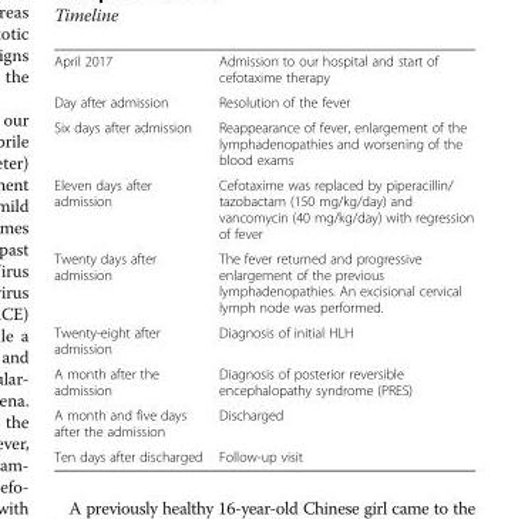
<table><tbody><tr><td>April 2017</td><td>Admission to our hospital and start of cefotaxime therapy</td></tr><tr><td>Day after admission</td><td>Resolution of the fever</td></tr><tr><td>Six days after admission</td><td>Reappearance of fever, enlargement of the lymphadenopathies and worsening of the blood exams</td></tr><tr><td>Eleven days after admission</td><td>Cefotaxime was replaced by piperacillin/ tazobactam (150 mg/kg/day) and vancomycin (40 mg/kg/day) with regression of fever</td></tr><tr><td>Twenty days after admission</td><td>The fever returned and progressive enlargement of the previous lymphadenopathies. An excisional cervical lymph node was performed.</td></tr><tr><td>Twenty-eight after admission</td><td>Diagnosis of initial HLH</td></tr><tr><td>A month after the admission</td><td>Diagnosis of posterior reversible encephalopathy syndrome (PRES)</td></tr><tr><td>A month and five days after the admission</td><td>Discharged</td></tr><tr><td>Ten days after discharged</td><td>Follow-up visit</td></tr></tbody></table>